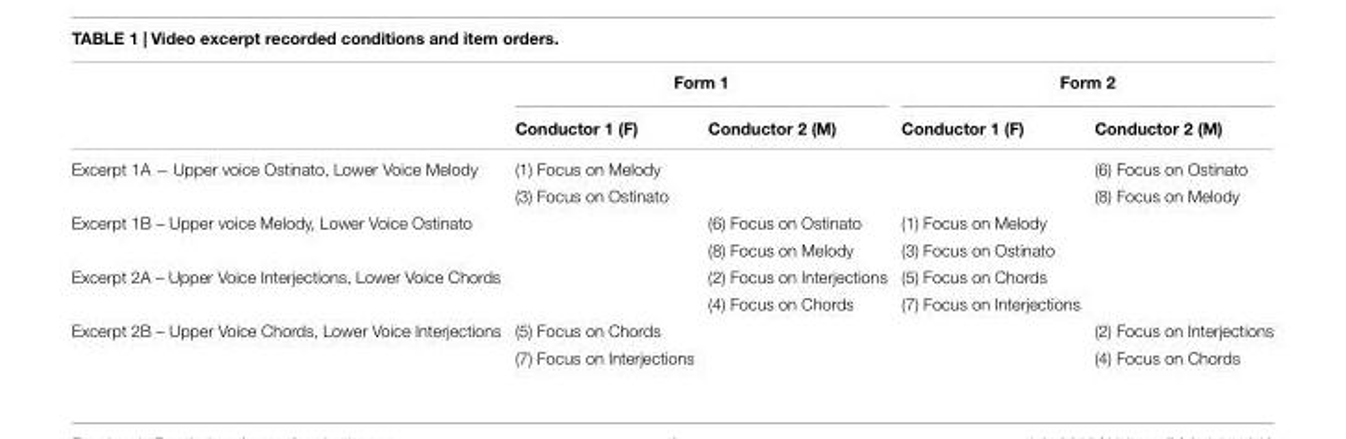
<table><thead><tr><td rowspan="2"></td><td colspan="2">Form 1</td><td colspan="2">Form 2</td></tr><tr><td>Conductor 1 (F)</td><td>Conductor 2 (M)</td><td>Conductor 1 (F)</td><td>Conductor 2 (M)</td></tr></thead><tbody><tr><td rowspan="2">Excerpt 1A − Upper voice Ostinato, Lower Voice Melody</td><td>(1) Focus on Melody</td><td></td><td></td><td>(6) Focus on Ostinato</td></tr><tr><td>(3) Focus on Ostinato</td><td></td><td></td><td>(8) Focus on Melody</td></tr><tr><td rowspan="2">Excerpt 1B – Upper voice Melody, Lower Voice Ostinato</td><td></td><td>(6) Focus on Ostinato</td><td>(1) Focus on Melody</td><td></td></tr><tr><td></td><td>(8) Focus on Melody</td><td>(3) Focus on Ostinato</td><td></td></tr><tr><td rowspan="2">Excerpt 2A – Upper Voice Interjections, Lower Voice Chords</td><td></td><td>(2) Focus on Interjections</td><td>(5) Focus on Chords</td><td></td></tr><tr><td></td><td>(4) Focus on Chords</td><td>(7) Focus on Interjections</td><td></td></tr><tr><td rowspan="2">Excerpt 2B – Upper Voice Chords, Lower Voice Interjections</td><td>(5) Focus on Chords</td><td></td><td></td><td>(2) Focus on Interjections</td></tr><tr><td>(7) Focus on Interjections</td><td></td><td></td><td>(4) Focus on Chords</td></tr></tbody></table>